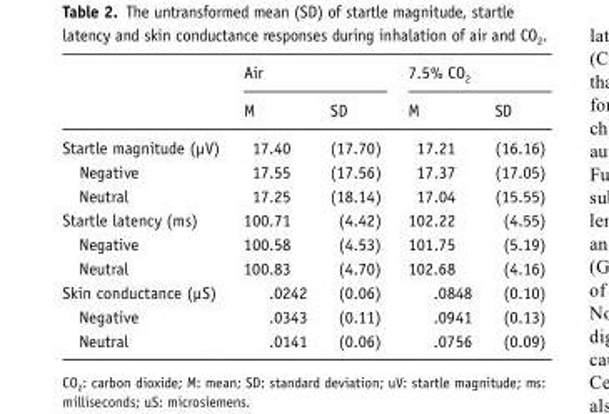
<table><thead><tr><td rowspan="2"></td><td colspan="2">Air</td><td colspan="2">7.5% CO<sub>2</sub></td></tr><tr><td>M</td><td>SD</td><td>M</td><td>SD</td></tr></thead><tbody><tr><td>Startle magnitude (μV)</td><td>17.40</td><td>(17.70)</td><td>17.21</td><td>(16.16)</td></tr><tr><td>Negative</td><td>17.55</td><td>(17.56)</td><td>17.37</td><td>(17.05)</td></tr><tr><td>Neutral</td><td>17.25</td><td>(18.14)</td><td>17.04</td><td>(15.55)</td></tr><tr><td>Startle latency (ms)</td><td>100.71</td><td>(4.42)</td><td>102.22</td><td>(4.55)</td></tr><tr><td>Negative</td><td>100.58</td><td>(4.53)</td><td>101.75</td><td>(5.19)</td></tr><tr><td>Neutral</td><td>100.83</td><td>(4.70)</td><td>102.68</td><td>(4.16)</td></tr><tr><td>Skin conductance (μS)</td><td>.0242</td><td>(0.06)</td><td>.0848</td><td>(0.10)</td></tr><tr><td>Negative</td><td>.0343</td><td>(0.11)</td><td>.0941</td><td>(0.13)</td></tr><tr><td>Neutral</td><td>.0141</td><td>(0.06)</td><td>.0756</td><td>(0.09)</td></tr></tbody></table>